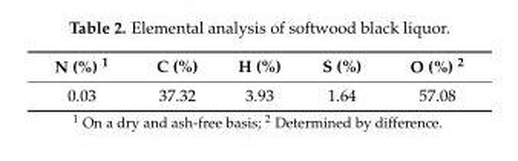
<table><thead><tr><td>N (%) <sup>1</sup></td><td>C (%)</td><td>H (%)</td><td>S (%)</td><td>O (%) <sup>2</sup></td></tr></thead><tbody><tr><td>0.03</td><td>37.32</td><td>3.93</td><td>1.64</td><td>57.08</td></tr></tbody></table>